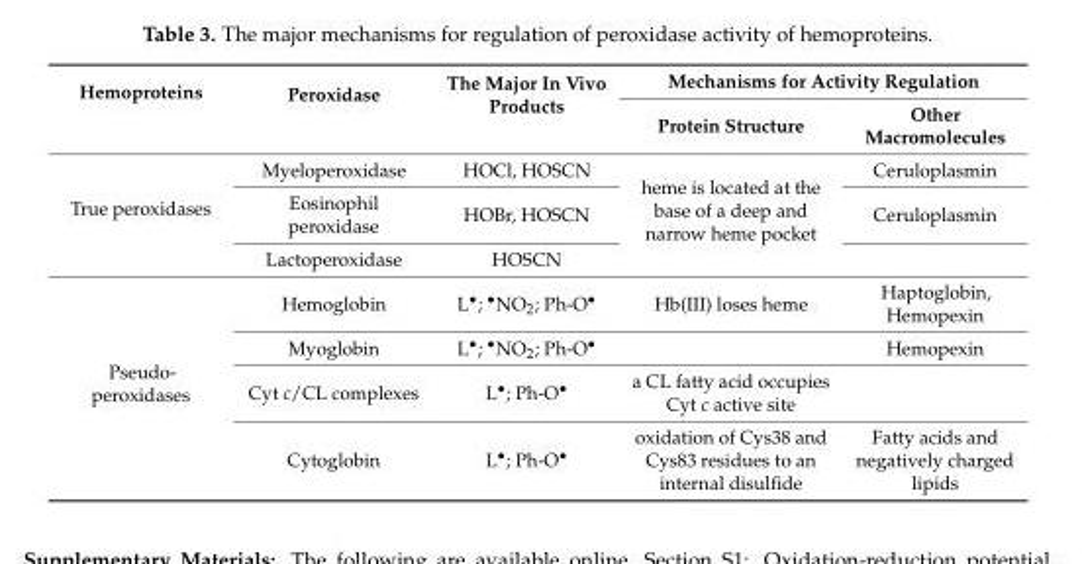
<table><thead><tr><td rowspan="2">Hemoproteins</td><td rowspan="2">Peroxidase</td><td rowspan="2">The Major In Vivo Products</td><td colspan="2">Mechanisms for Activity Regulation</td></tr><tr><td>Protein Structure</td><td>Other Macromolecules</td></tr></thead><tbody><tr><td rowspan="3">True peroxidases</td><td>Myeloperoxidase</td><td>HOCl, HOSCN</td><td rowspan="3">heme is located at the base of a deep and narrow heme pocket</td><td>Ceruloplasmin</td></tr><tr><td>Eosinophil peroxidase</td><td>HOBr, HOSCN</td><td>Ceruloplasmin</td></tr><tr><td>Lactoperoxidase</td><td>HOSCN</td><td></td></tr><tr><td rowspan="4">Pseudo- peroxidases</td><td>Hemoglobin</td><td>L•; •NO2; Ph-O•</td><td>Hb(III) loses heme</td><td>Haptoglobin, Hemopexin</td></tr><tr><td>Myoglobin</td><td>L•; •NO2; Ph-O•</td><td></td><td>Hemopexin</td></tr><tr><td>Cyt c/CL complexes</td><td>L•; Ph-O•</td><td>a CL fatty acid occupies Cyt c active site</td><td></td></tr><tr><td>Cytoglobin</td><td>L•; Ph-O•</td><td>oxidation of Cys38 and Cys83 residues to an internal disulfide</td><td>Fatty acids and negatively charged lipids</td></tr></tbody></table>